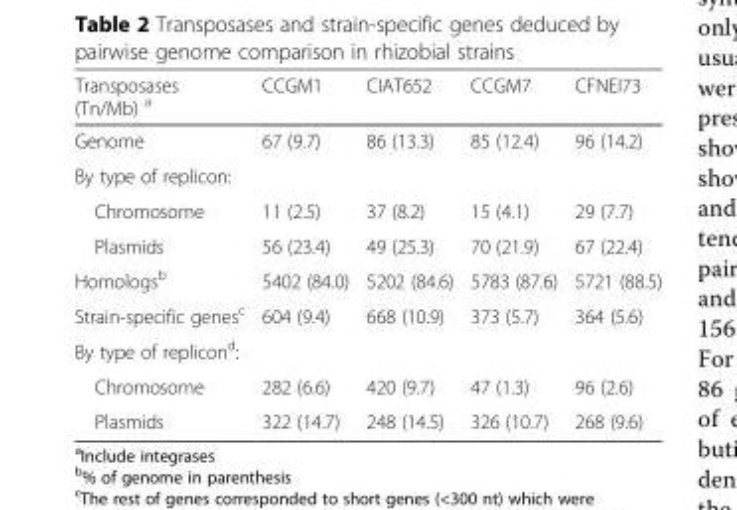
<table><thead><tr><td>Transposases (Tn/Mb) <sup>a</sup></td><td>CCGM1</td><td>CIAT652</td><td>CCGM7</td><td>CFNEI73</td></tr></thead><tbody><tr><td>Genome</td><td>67 (9.7)</td><td>86 (13.3)</td><td>85 (12.4)</td><td>96 (14.2)</td></tr><tr><td colspan="5">By type of replicon:</td></tr><tr><td>Chromosome</td><td>11 (2.5)</td><td>37 (8.2)</td><td>15 (4.1)</td><td>29 (7.7)</td></tr><tr><td>Plasmids</td><td>56 (23.4)</td><td>49 (25.3)</td><td>70 (21.9)</td><td>67 (22.4)</td></tr><tr><td>Homologs<sup>b</sup></td><td>5402 (84.0)</td><td>5202 (84.6)</td><td>5783 (87.6)</td><td>5721 (88.5)</td></tr><tr><td>Strain-specific genes<sup>c</sup></td><td>604 (9.4)</td><td>668 (10.9)</td><td>373 (5.7)</td><td>364 (5.6)</td></tr><tr><td colspan="5">By type of replicon<sup>d</sup>:</td></tr><tr><td>Chromosome</td><td>282 (6.6)</td><td>420 (9.7)</td><td>47 (1.3)</td><td>96 (2.6)</td></tr><tr><td>Plasmids</td><td>322 (14.7)</td><td>248 (14.5)</td><td>326 (10.7)</td><td>268 (9.6)</td></tr></tbody></table>